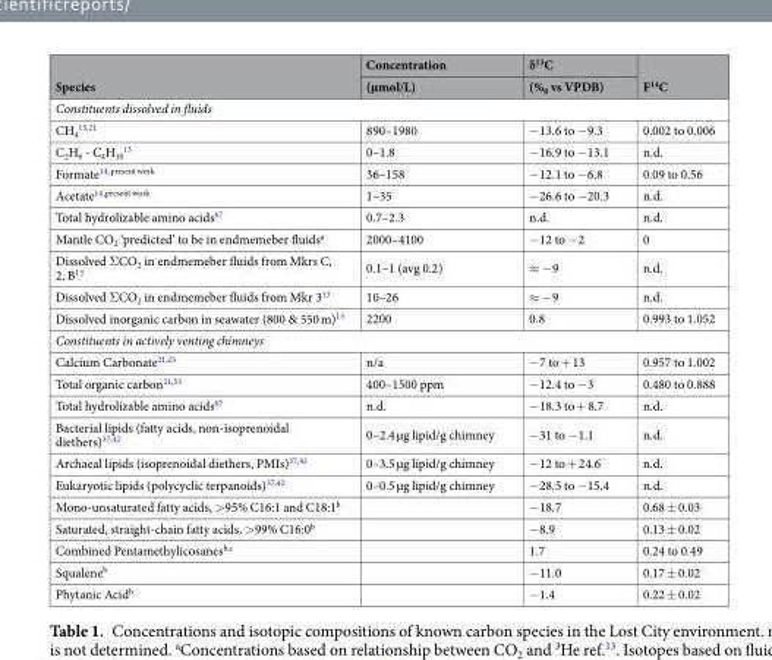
<table><thead><tr><td rowspan="2">Species</td><td rowspan="2">Concentration (µmol/L)</td><td rowspan="2">δ<sup>13</sup>C (%<sub>0</sub> vs VPDB)</td><td rowspan="2">F<sup>14</sup>C</td></tr><tr></tr></thead><tbody><tr><td colspan="4">Constituents dissolved in fluids</td></tr><tr><td>CH<sub>4</sub> <sup>13,21</sup></td><td>890–1980</td><td>−13.6 to −9.3</td><td>0.002 to 0.006</td></tr><tr><td>C<sub>2</sub>H<sub>6</sub> - C<sub>4</sub>H<sub>10</sub> <sup>13</sup></td><td>0–1.8</td><td>−16.9 to −13.1</td><td>n.d.</td></tr><tr><td>Formate<sup>14 ,present work</sup></td><td>36–158</td><td>−12.1 to −6.8</td><td>0.09 to 0.56</td></tr><tr><td>Acetate<sup>14 ,present work</sup></td><td>1–35</td><td>−26.6 to −20.3</td><td>n.d.</td></tr><tr><td>Total hydrolizable amino acids<sup>67</sup></td><td>0.7–2.3</td><td>n.d.</td><td>n.d.</td></tr><tr><td>Mantle CO<sub>2</sub> ‘predicted’ to be in endmemeber fluids<sup>a</sup></td><td>2000–4100</td><td>−12 to −2</td><td>0</td></tr><tr><td>Dissolved ΣCO<sub>2</sub> in endmemeber fluids from Mkrs C, 2, B<sup>13</sup></td><td>0.1–1 (avg 0.2)</td><td>≈ −9</td><td>n.d.</td></tr><tr><td>Dissolved ΣCO<sub>2</sub> in endmemeber fluids from Mkr 3<sup>13</sup></td><td>10–26</td><td>≈ −9</td><td>n.d.</td></tr><tr><td>Dissolved inorganic carbon in seawater (800 &amp; 550 m)<sup>13</sup></td><td>2200</td><td>0.8</td><td>0.993 to 1.052</td></tr><tr><td colspan="4">Constituents in actively venting chimneys</td></tr><tr><td>Calcium Carbonate<sup>21,23</sup></td><td>n/a</td><td>−7 to + 13</td><td>0.957 to 1.002</td></tr><tr><td>Total organic carbon<sup>21,53</sup></td><td>400–1500 ppm</td><td>−12.4 to −3</td><td>0.480 to 0.888</td></tr><tr><td>Total hydrolizable amino acids<sup>67</sup></td><td>n.d.</td><td>−18.3 to + 8.7</td><td>n.d.</td></tr><tr><td>Bacterial lipids (fatty acids, non-isoprenoidal diethers)<sup>37,42</sup></td><td>0–2.4 µg lipid/g chimney</td><td>−31 to −1.1</td><td>n.d.</td></tr><tr><td>Archaeal lipids (isoprenoidal diethers, PMIs)<sup>37,42</sup></td><td>0–3.5 µg lipid/g chimney</td><td>−12 to + 24.6</td><td>n.d.</td></tr><tr><td>Eukaryotic lipids (polycyclic terpanoids)<sup>37,42</sup></td><td>0–0.5 µg lipid/g chimney</td><td>−28.5 to −15.4</td><td>n.d.</td></tr><tr><td>Mono-unsaturated fatty acids, &gt;95% C16:1 and C18:1<sup>b</sup></td><td></td><td>−18.7</td><td>0.68 ± 0.03</td></tr><tr><td>Saturated, straight-chain fatty acids, &gt;99% C16:0<sup>b</sup></td><td></td><td>−8.9</td><td>0.13 ± 0.02</td></tr><tr><td>Combined Pentamethylicosanes<sup>b,c</sup></td><td></td><td>1.7</td><td>0.24 to 0.49</td></tr><tr><td>Squalene<sup>b</sup></td><td></td><td>−11.0</td><td>0.17 ± 0.02</td></tr><tr><td>Phytanic Acid<sup>b</sup></td><td></td><td>−1.4</td><td>0.22 ± 0.02</td></tr></tbody></table>